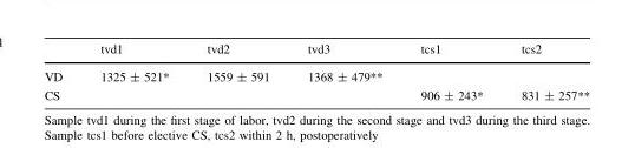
<table><thead><tr><td></td><td>tvd1</td><td>tvd2</td><td>tvd3</td><td>tcs1</td><td>tcs2</td></tr></thead><tbody><tr><td>VD</td><td>1325 ± 521*</td><td>1559 ± 591</td><td>1368 ± 479**</td><td></td><td></td></tr><tr><td>CS</td><td></td><td></td><td></td><td>906 ± 243*</td><td>831 ± 257**</td></tr></tbody></table>